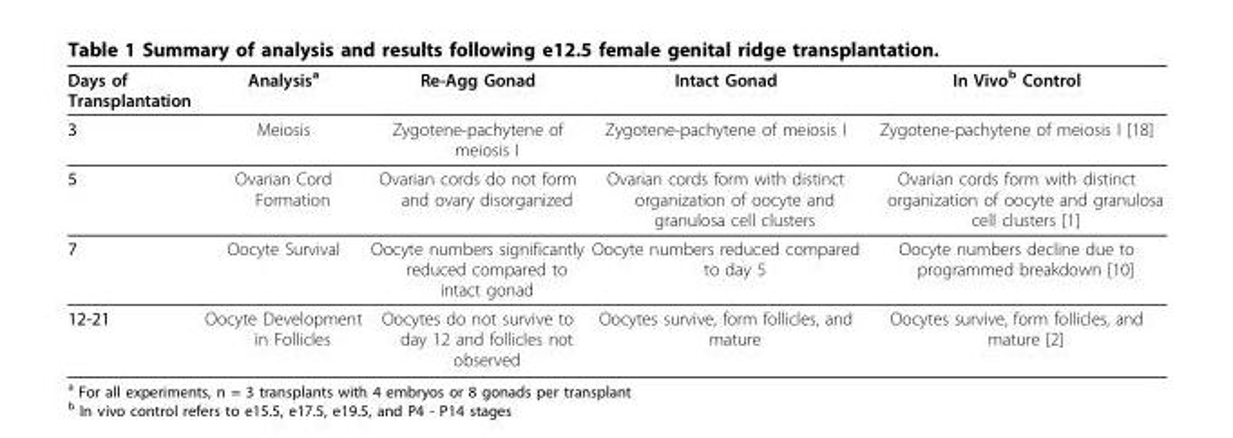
<table><thead><tr><td>Days of Transplantation</td><td>Analysis<sup>a</sup></td><td>Re-Agg Gonad</td><td>Intact Gonad</td><td>In Vivo<sup>b</sup> Control</td></tr></thead><tbody><tr><td>3</td><td>Meiosis</td><td>Zygotene-pachytene of meiosis I</td><td>Zygotene-pachytene of meiosis I</td><td>Zygotene-pachytene of meiosis I [18]</td></tr><tr><td>5</td><td>Ovarian Cord Formation</td><td>Ovarian cords do not form and ovary disorganized</td><td>Ovarian cords form with distinct organization of oocyte and granulosa cell clusters</td><td>Ovarian cords form with distinct organization of oocyte and granulosa cell clusters [1]</td></tr><tr><td>7</td><td>Oocyte Survival</td><td>Oocyte numbers significantly reduced compared to intact gonad</td><td>Oocyte numbers reduced compared to day 5</td><td>Oocyte numbers decline due to programmed breakdown [10]</td></tr><tr><td>12-21</td><td>Oocyte Development in Follicles</td><td>Oocytes do not survive to day 12 and follicles not observed</td><td>Oocytes survive, form follicles, and mature</td><td>Oocytes survive, form follicles, and mature [2]</td></tr></tbody></table>